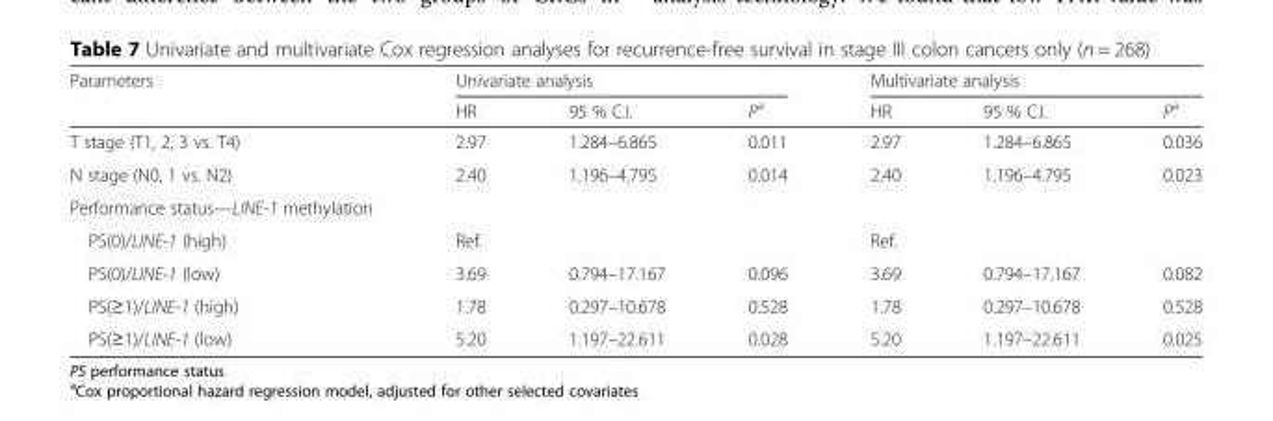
<table><thead><tr><td rowspan="2">Parameters</td><td colspan="3">Univariate analysis</td><td colspan="3">Multivariate analysis</td></tr><tr><td>HR</td><td>95 % C.I.</td><td>P<sup>a</sup></td><td>HR</td><td>95 % C.I.</td><td>P<sup>a</sup></td></tr></thead><tbody><tr><td>T stage (T1, 2, 3 vs. T4)</td><td>2.97</td><td>1.284–6.865</td><td>0.011</td><td>2.97</td><td>1.284–6.865</td><td>0.036</td></tr><tr><td>N stage (N0, 1 vs. N2)</td><td>2.40</td><td>1.196–4.795</td><td>0.014</td><td>2.40</td><td>1.196–4.795</td><td>0.023</td></tr><tr><td colspan="7">Performance status—LINE-1 methylation</td></tr><tr><td>PS(0)/LINE-1 (high)</td><td>Ref.</td><td></td><td></td><td>Ref.</td><td></td><td></td></tr><tr><td>PS(0)/LINE-1 (low)</td><td>3.69</td><td>0.794–17.167</td><td>0.096</td><td>3.69</td><td>0.794–17.167</td><td>0.082</td></tr><tr><td>PS(≥1)/LINE-1 (high)</td><td>1.78</td><td>0.297–10.678</td><td>0.528</td><td>1.78</td><td>0.297–10.678</td><td>0.528</td></tr><tr><td>PS(≥1)/LINE-1 (low)</td><td>5.20</td><td>1.197–22.611</td><td>0.028</td><td>5.20</td><td>1.197–22.611</td><td>0.025</td></tr></tbody></table>